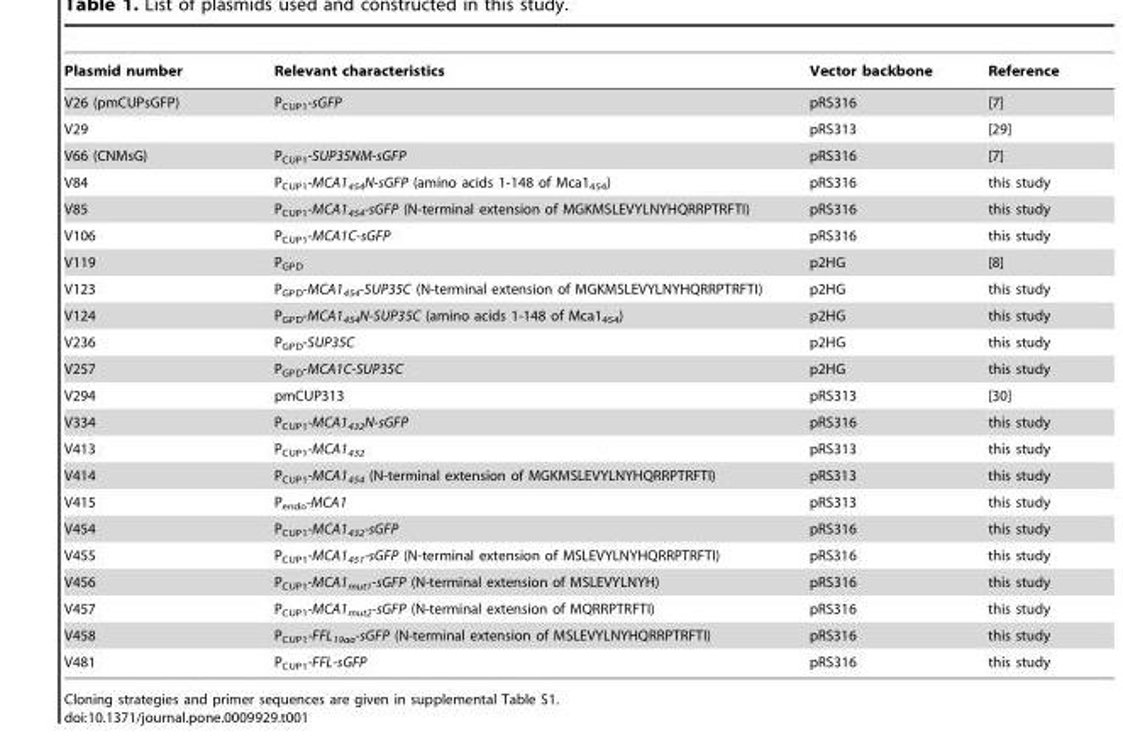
<table><thead><tr><td>Plasmid number</td><td>Relevant characteristics</td><td>Vector backbone</td><td>Reference</td></tr></thead><tbody><tr><td>V26 (pmCUPsGFP)</td><td>P<sub>CUP1</sub>-sGFP</td><td>pRS316</td><td>[7]</td></tr><tr><td>V29</td><td></td><td>pRS313</td><td>[29]</td></tr><tr><td>V66 (CNMsG)</td><td>P<sub>CUP1</sub>-SUP35NM-sGFP</td><td>pRS316</td><td>[7]</td></tr><tr><td>V84</td><td>P<sub>CUP1</sub>-MCA1<sub>454</sub>N-sGFP (amino acids 1-148 of Mca1<sub>454</sub>)</td><td>pRS316</td><td>this study</td></tr><tr><td>V85</td><td>P<sub>CUP1</sub>-MCA1<sub>454</sub>-sGFP (N-terminal extension of MGKMSLEVYLNYHQRRPTRFTI)</td><td>pRS316</td><td>this study</td></tr><tr><td>V106</td><td>P<sub>CUP1</sub>-MCA1C-sGFP</td><td>pRS316</td><td>this study</td></tr><tr><td>V119</td><td>P<sub>GPD</sub></td><td>p2HG</td><td>[8]</td></tr><tr><td>V123</td><td>P<sub>GPD</sub>-MCA1<sub>454</sub>-SUP35C (N-terminal extension of MGKMSLEVYLNYHQRRPTRFTI)</td><td>p2HG</td><td>this study</td></tr><tr><td>V124</td><td>P<sub>GPD</sub>-MCA1<sub>454</sub>N-SUP35C (amino acids 1-148 of Mca1<sub>454</sub>)</td><td>p2HG</td><td>this study</td></tr><tr><td>V236</td><td>P<sub>GPD</sub>-SUP35C</td><td>p2HG</td><td>this study</td></tr><tr><td>V257</td><td>P<sub>GPD</sub>-MCA1C-SUP35C</td><td>p2HG</td><td>this study</td></tr><tr><td>V294</td><td>pmCUP313</td><td>pRS313</td><td>[30]</td></tr><tr><td>V334</td><td>P<sub>CUP1</sub>-MCA1<sub>432</sub>N-sGFP</td><td>pRS316</td><td>this study</td></tr><tr><td>V413</td><td>P<sub>CUP1</sub>-MCA1<sub>432</sub></td><td>pRS313</td><td>this study</td></tr><tr><td>V414</td><td>P<sub>CUP1</sub>-MCA1<sub>454</sub> (N-terminal extension of MGKMSLEVYLNYHQRRPTRFTI)</td><td>pRS313</td><td>this study</td></tr><tr><td>V415</td><td>P<sub>endo</sub>-MCA1</td><td>pRS313</td><td>this study</td></tr><tr><td>V454</td><td>P<sub>CUP1</sub>-MCA1<sub>432</sub>-sGFP</td><td>pRS316</td><td>this study</td></tr><tr><td>V455</td><td>P<sub>CUP1</sub>-MCA1<sub>451</sub>-sGFP (N-terminal extension of MSLEVYLNYHQRRPTRFTI)</td><td>pRS316</td><td>this study</td></tr><tr><td>V456</td><td>P<sub>CUP1</sub>-MCA1<sub>mut1</sub>-sGFP (N-terminal extension of MSLEVYLNYH)</td><td>pRS316</td><td>this study</td></tr><tr><td>V457</td><td>P<sub>CUP1</sub>-MCA1<sub>mut2</sub>-sGFP (N-terminal extension of MQRRPTRFTI)</td><td>pRS316</td><td>this study</td></tr><tr><td>V458</td><td>P<sub>CUP1</sub>-FFL<sub>19aa</sub>-sGFP (N-terminal extension of MSLEVYLNYHQRRPTRFTI)</td><td>pRS316</td><td>this study</td></tr><tr><td>V481</td><td>P<sub>CUP1</sub>-FFL-sGFP</td><td>pRS316</td><td>this study</td></tr></tbody></table>